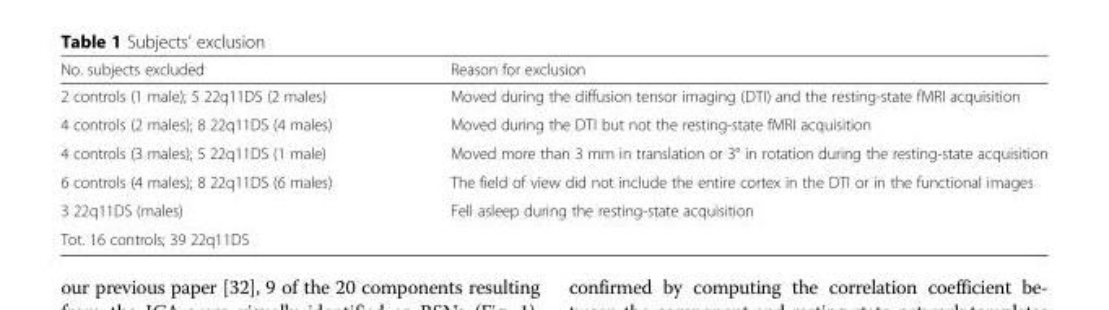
<table><thead><tr><td>No. subjects excluded</td><td>Reason for exclusion</td></tr></thead><tbody><tr><td>2 controls (1 male); 5 22q11DS (2 males)</td><td>Moved during the diffusion tensor imaging (DTI) and the resting-state fMRI acquisition</td></tr><tr><td>4 controls (2 males); 8 22q11DS (4 males)</td><td>Moved during the DTI but not the resting-state fMRI acquisition</td></tr><tr><td>4 controls (3 males); 5 22q11DS (1 male)</td><td>Moved more than 3 mm in translation or 3° in rotation during the resting-state acquisition</td></tr><tr><td>6 controls (4 males); 8 22q11DS (6 males)</td><td>The field of view did not include the entire cortex in the DTI or in the functional images</td></tr><tr><td>3 22q11DS (males)</td><td>Fell asleep during the resting-state acquisition</td></tr><tr><td colspan="2">Tot. 16 controls; 39 22q11DS</td></tr></tbody></table>